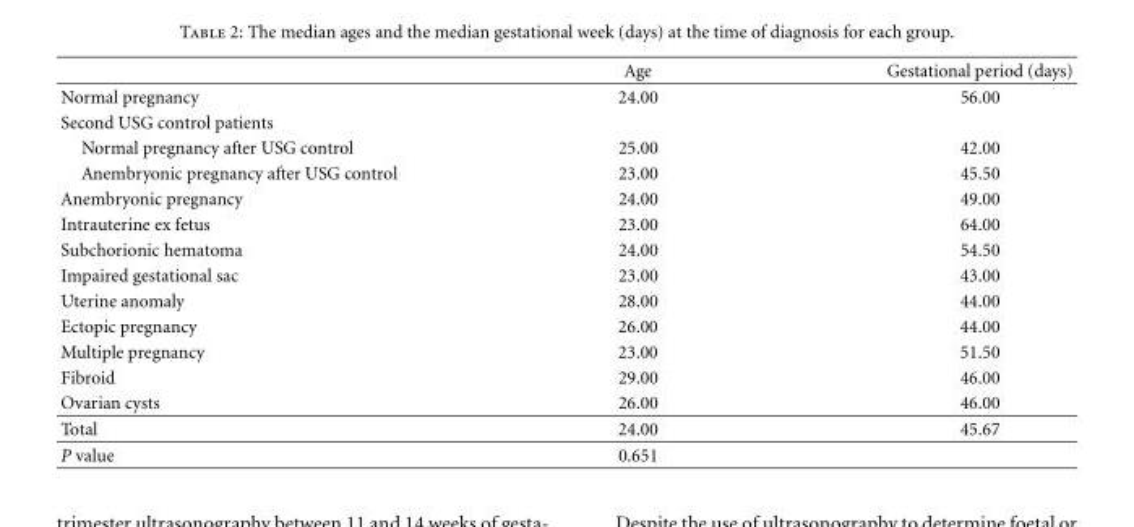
<table><thead><tr><td></td><td>Age</td><td>Gestational period (days)</td></tr></thead><tbody><tr><td>Normal pregnancy</td><td>24.00</td><td>56.00</td></tr><tr><td colspan="3">Second USG control patients</td></tr><tr><td>Normal pregnancy after USG control</td><td>25.00</td><td>42.00</td></tr><tr><td>Anembryonic pregnancy after USG control</td><td>23.00</td><td>45.50</td></tr><tr><td>Anembryonic pregnancy</td><td>24.00</td><td>49.00</td></tr><tr><td>Intrauterine ex fetus</td><td>23.00</td><td>64.00</td></tr><tr><td>Subchorionic hematoma</td><td>24.00</td><td>54.50</td></tr><tr><td>Impaired gestational sac</td><td>23.00</td><td>43.00</td></tr><tr><td>Uterine anomaly</td><td>28.00</td><td>44.00</td></tr><tr><td>Ectopic pregnancy</td><td>26.00</td><td>44.00</td></tr><tr><td>Multiple pregnancy</td><td>23.00</td><td>51.50</td></tr><tr><td>Fibroid</td><td>29.00</td><td>46.00</td></tr><tr><td>Ovarian cysts</td><td>26.00</td><td>46.00</td></tr><tr><td>Total</td><td>24.00</td><td>45.67</td></tr><tr><td>P value</td><td>0.651</td><td></td></tr></tbody></table>